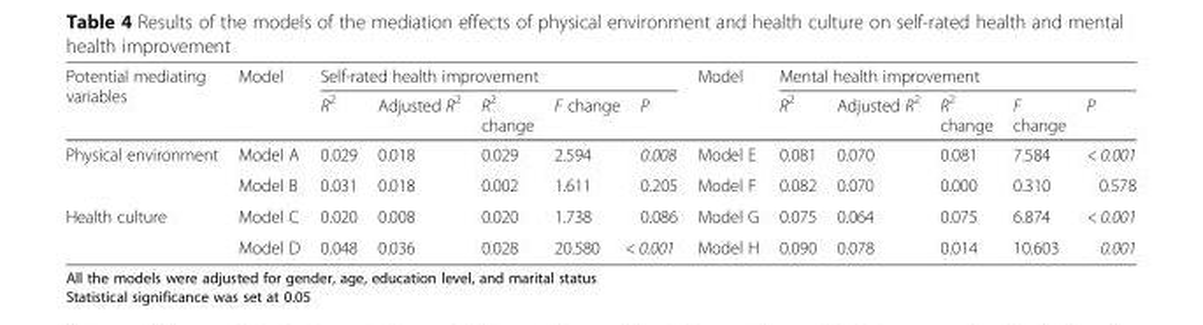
<table><thead><tr><td rowspan="2">Potential mediating variables</td><td rowspan="2">Model</td><td colspan="5">Self-rated health improvement</td><td rowspan="2">Model</td><td colspan="5">Mental health improvement</td></tr><tr><td>R<sup>2</sup></td><td>Adjusted R<sup>2</sup></td><td>R<sup>2</sup> change</td><td>F change</td><td>P</td><td>R<sup>2</sup></td><td>Adjusted R<sup>2</sup></td><td>R<sup>2</sup> change</td><td>F change</td><td>P</td></tr></thead><tbody><tr><td rowspan="2">Physical environment</td><td>Model A</td><td>0.029</td><td>0.018</td><td>0.029</td><td>2.594</td><td>0.008</td><td>Model E</td><td>0.081</td><td>0.070</td><td>0.081</td><td>7.584</td><td>&lt; 0.001</td></tr><tr><td>Model B</td><td>0.031</td><td>0.018</td><td>0.002</td><td>1.611</td><td>0.205</td><td>Model F</td><td>0.082</td><td>0.070</td><td>0.000</td><td>0.310</td><td>0.578</td></tr><tr><td rowspan="2">Health culture</td><td>Model C</td><td>0.020</td><td>0.008</td><td>0.020</td><td>1.738</td><td>0.086</td><td>Model G</td><td>0.075</td><td>0.064</td><td>0.075</td><td>6.874</td><td>&lt; 0.001</td></tr><tr><td>Model D</td><td>0.048</td><td>0.036</td><td>0.028</td><td>20.580</td><td>&lt; 0.001</td><td>Model H</td><td>0.090</td><td>0.078</td><td>0.014</td><td>10.603</td><td>0.001</td></tr></tbody></table>